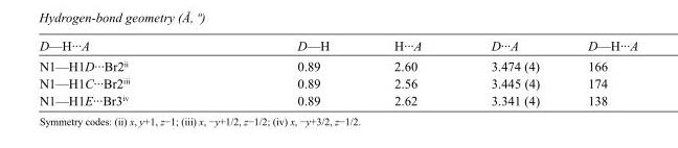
<table><tbody><tr><td>D—H···A</td><td>D—H</td><td>H···A</td><td>D···A</td><td>D—H···A</td></tr><tr><td>N1—H1D···Br2<sup>ii</sup></td><td>0.89</td><td>2.60</td><td>3.474 (4)</td><td>166</td></tr><tr><td>N1—H1C···Br2<sup>iii</sup></td><td>0.89</td><td>2.56</td><td>3.445 (4)</td><td>174</td></tr><tr><td>N1—H1E···Br3<sup>iv</sup></td><td>0.89</td><td>2.62</td><td>3.341 (4)</td><td>138</td></tr></tbody></table>